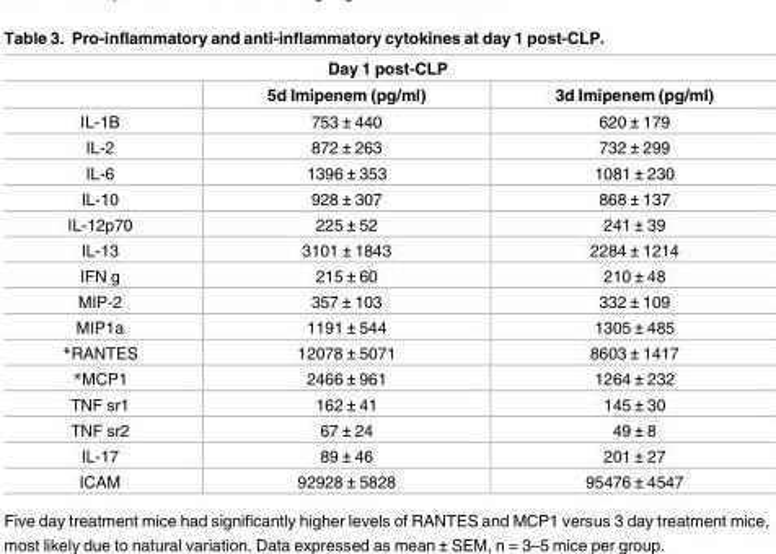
<table><thead><tr><td colspan="3">Day 1 post-CLP</td></tr><tr><td></td><td>5d Imipenem (pg/ml)</td><td>3d Imipenem (pg/ml)</td></tr></thead><tbody><tr><td>IL-1B</td><td>753 ± 440</td><td>620 ± 179</td></tr><tr><td>IL-2</td><td>872 ± 263</td><td>732 ± 299</td></tr><tr><td>IL-6</td><td>1396 ± 353</td><td>1081 ± 230</td></tr><tr><td>IL-10</td><td>928 ± 307</td><td>868 ± 137</td></tr><tr><td>IL-12p70</td><td>225 ± 52</td><td>241 ± 39</td></tr><tr><td>IL-13</td><td>3101 ± 1843</td><td>2284 ± 1214</td></tr><tr><td>IFN g</td><td>215 ± 60</td><td>210 ± 48</td></tr><tr><td>MIP-2</td><td>357 ± 103</td><td>332 ± 109</td></tr><tr><td>MIP1a</td><td>1191 ± 544</td><td>1305 ± 485</td></tr><tr><td>*RANTES</td><td>12078 ± 5071</td><td>8603 ± 1417</td></tr><tr><td>*MCP1</td><td>2466 ± 961</td><td>1264 ± 232</td></tr><tr><td>TNF sr1</td><td>162 ± 41</td><td>145 ± 30</td></tr><tr><td>TNF sr2</td><td>67 ± 24</td><td>49 ± 8</td></tr><tr><td>IL-17</td><td>89 ± 46</td><td>201 ± 27</td></tr><tr><td>ICAM</td><td>92928 ± 5828</td><td>95476 ± 4547</td></tr></tbody></table>